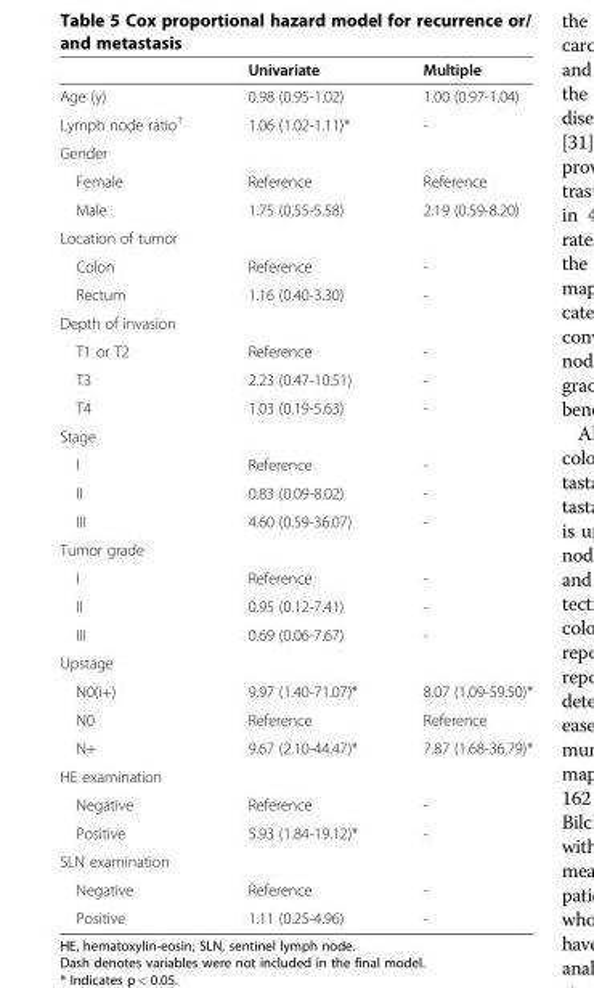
<table><thead><tr><td></td><td>Univariate</td><td>Multiple</td></tr></thead><tbody><tr><td>Age (y)</td><td>0.98 (0.95-1.02)</td><td>1.00 (0.97-1.04)</td></tr><tr><td>Lymph node ratio<sup>†</sup></td><td>1.06 (1.02-1.11)*</td><td>-</td></tr><tr><td colspan="3">Gender</td></tr><tr><td>Female</td><td>Reference</td><td>Reference</td></tr><tr><td>Male</td><td>1.75 (0.55-5.58)</td><td>2.19 (0.59-8.20)</td></tr><tr><td colspan="3">Location of tumor</td></tr><tr><td>Colon</td><td>Reference</td><td>-</td></tr><tr><td>Rectum</td><td>1.16 (0.40-3.30)</td><td>-</td></tr><tr><td colspan="3">Depth of invasion</td></tr><tr><td>T1 or T2</td><td>Reference</td><td>-</td></tr><tr><td>T3</td><td>2.23 (0.47-10.51)</td><td>-</td></tr><tr><td>T4</td><td>1.03 (0.19-5.63)</td><td>-</td></tr><tr><td colspan="3">Stage</td></tr><tr><td>I</td><td>Reference</td><td>-</td></tr><tr><td>II</td><td>0.83 (0.09-8.02)</td><td>-</td></tr><tr><td>III</td><td>4.60 (0.59-36.07)</td><td>-</td></tr><tr><td colspan="3">Tumor grade</td></tr><tr><td>I</td><td>Reference</td><td>-</td></tr><tr><td>II</td><td>0.95 (0.12-7.41)</td><td>-</td></tr><tr><td>III</td><td>0.69 (0.06-7.67)</td><td>-</td></tr><tr><td colspan="3">Upstage</td></tr><tr><td>N0(i+)</td><td>9.97 (1.40-71.07)*</td><td>8.07 (1.09-59.50)*</td></tr><tr><td>N0</td><td>Reference</td><td>Reference</td></tr><tr><td>N+</td><td>9.67 (2.10-44.47)*</td><td>7.87 (1.68-36.79)*</td></tr><tr><td colspan="3">HE examination</td></tr><tr><td>Negative</td><td>Reference</td><td>-</td></tr><tr><td>Positive</td><td>5.93 (1.84-19.12)*</td><td>-</td></tr><tr><td colspan="3">SLN examination</td></tr><tr><td>Negative</td><td>Reference</td><td>-</td></tr><tr><td>Positive</td><td>1.11 (0.25-4.96)</td><td>-</td></tr></tbody></table>